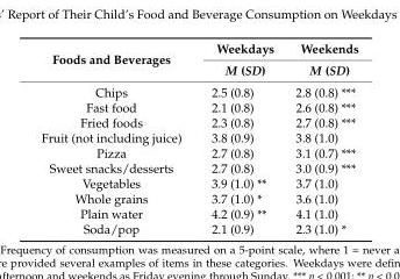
<table><thead><tr><td rowspan="2">Foods and Beverages</td><td rowspan="2">Weekdays M (SD)</td><td rowspan="2">Weekends M (SD)</td></tr><tr></tr></thead><tbody><tr><td>Chips</td><td>2.5 (0.8)</td><td>2.8 (0.8) ***</td></tr><tr><td>Fast food</td><td>2.1 (0.8)</td><td>2.6 (0.8) ***</td></tr><tr><td>Fried foods</td><td>2.3 (0.8)</td><td>2.7 (0.8) ***</td></tr><tr><td>Fruit (not including juice)</td><td>3.8 (0.9)</td><td>3.8 (1.0)</td></tr><tr><td>Pizza</td><td>2.7 (0.8)</td><td>3.1 (0.7) ***</td></tr><tr><td>Sweet snacks/desserts</td><td>2.7 (0.8)</td><td>3.0 (0.9) ***</td></tr><tr><td>Vegetables</td><td>3.9 (1.0) **</td><td>3.7 (1.0)</td></tr><tr><td>Whole grains</td><td>3.7 (1.0) *</td><td>3.6 (1.0)</td></tr><tr><td>Plain water</td><td>4.2 (0.9) **</td><td>4.1 (1.0)</td></tr><tr><td>Soda/pop</td><td>2.1 (0.9)</td><td>2.3 (1.0) *</td></tr></tbody></table>